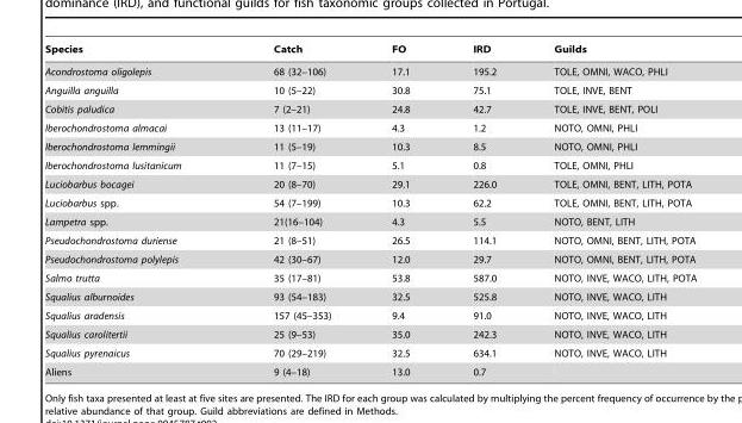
<table><thead><tr><td>Species</td><td>Catch</td><td>FO</td><td>IRD</td><td>Guilds</td></tr></thead><tbody><tr><td>Acondrostoma oligolepis</td><td>68 (32–106)</td><td>17.1</td><td>195.2</td><td>TOLE, OMNI, WACO, PHLI</td></tr><tr><td>Anguilla anguilla</td><td>10 (5–22)</td><td>30.8</td><td>75.1</td><td>TOLE, INVE, BENT</td></tr><tr><td>Cobitis paludica</td><td>7 (2–21)</td><td>24.8</td><td>42.7</td><td>TOLE, INVE, BENT, POLI</td></tr><tr><td>Iberochondrostoma almacai</td><td>13 (11–17)</td><td>4.3</td><td>1.2</td><td>NOTO, OMNI, PHLI</td></tr><tr><td>Iberochondrostoma lemmingii</td><td>11 (5–19)</td><td>10.3</td><td>8.5</td><td>NOTO, OMNI, PHLI</td></tr><tr><td>Iberochondrostoma lusitanicum</td><td>11 (7–15)</td><td>5.1</td><td>0.8</td><td>TOLE, OMNI, PHLI</td></tr><tr><td>Luciobarbus bocagei</td><td>20 (8–70)</td><td>29.1</td><td>226.0</td><td>TOLE, OMNI, BENT, LITH, POTA</td></tr><tr><td>Luciobarbus spp.</td><td>54 (7–199)</td><td>10.3</td><td>62.2</td><td>TOLE, OMNI, BENT, LITH, POTA</td></tr><tr><td>Lampetra spp.</td><td>21(16–104)</td><td>4.3</td><td>5.5</td><td>NOTO, BENT, LITH</td></tr><tr><td>Pseudochondrostoma duriense</td><td>21 (8–51)</td><td>26.5</td><td>114.1</td><td>NOTO, OMNI, BENT, LITH, POTA</td></tr><tr><td>Pseudochondrostoma polylepis</td><td>42 (30–67)</td><td>12.0</td><td>29.7</td><td>NOTO, OMNI, BENT, LITH, POTA</td></tr><tr><td>Salmo trutta</td><td>35 (17–81)</td><td>53.8</td><td>587.0</td><td>NOTO, INVE, WACO, LITH, POTA</td></tr><tr><td>Squalius alburnoides</td><td>93 (54–183)</td><td>32.5</td><td>525.8</td><td>NOTO, INVE, WACO, LITH</td></tr><tr><td>Squalius aradensis</td><td>157 (45–353)</td><td>9.4</td><td>91.0</td><td>NOTO, INVE, WACO, LITH</td></tr><tr><td>Squalius carolitertii</td><td>25 (9–53)</td><td>35.0</td><td>242.3</td><td>NOTO, INVE, WACO, LITH</td></tr><tr><td>Squalius pyrenaicus</td><td>70 (29–219)</td><td>32.5</td><td>634.1</td><td>NOTO, INVE, WACO, LITH</td></tr><tr><td>Aliens</td><td>9 (4–18)</td><td>13.0</td><td>0.7</td><td></td></tr></tbody></table>